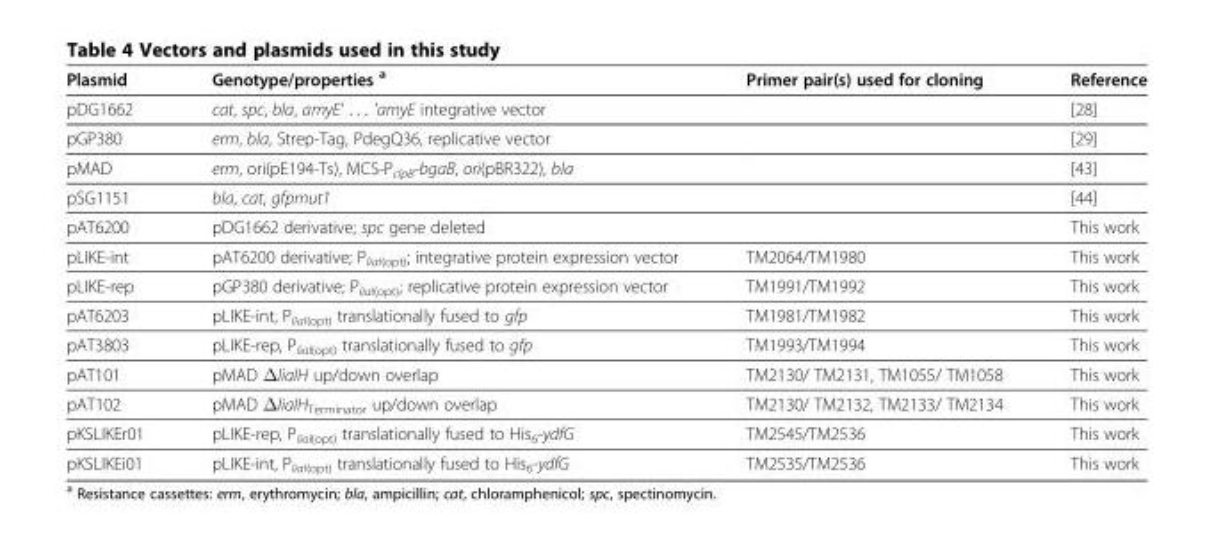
<table><thead><tr><td>Plasmid</td><td>Genotype/properties <sup>a</sup></td><td>Primer pair(s) used for cloning</td><td>Reference</td></tr></thead><tbody><tr><td>pDG1662</td><td>cat, spc, bla, amyE&#x27; . . . &#x27;amyE integrative vector</td><td></td><td>[28]</td></tr><tr><td>pGP380</td><td>erm, bla, Strep-Tag, PdegQ36, replicative vector</td><td></td><td>[29]</td></tr><tr><td>pMAD</td><td>erm, ori(pE194-Ts), MCS-P<sub>clpB</sub>-bgaB, ori(pBR322), bla</td><td></td><td>[43]</td></tr><tr><td>pSG1151</td><td>bla, cat, gfpmut1</td><td></td><td>[44]</td></tr><tr><td>pAT6200</td><td>pDG1662 derivative; spc gene deleted</td><td></td><td>This work</td></tr><tr><td>pLIKE-int</td><td>pAT6200 derivative; P<sub>liaI(opt)</sub>; integrative protein expression vector</td><td>TM2064/TM1980</td><td>This work</td></tr><tr><td>pLIKE-rep</td><td>pGP380 derivative; P<sub>liaI(opt)</sub>; replicative protein expression vector</td><td>TM1991/TM1992</td><td>This work</td></tr><tr><td>pAT6203</td><td>pLIKE-int, P<sub>liaI(opt)</sub> translationally fused to gfp</td><td>TM1981/TM1982</td><td>This work</td></tr><tr><td>pAT3803</td><td>pLIKE-rep, P<sub>liaI(opt)</sub> translationally fused to gfp</td><td>TM1993/TM1994</td><td>This work</td></tr><tr><td>pAT101</td><td>pMAD ΔliaIH up/down overlap</td><td>TM2130/ TM2131, TM1055/ TM1058</td><td>This work</td></tr><tr><td>pAT102</td><td>pMAD ΔliaIH<sub>Terminator</sub> up/down overlap</td><td>TM2130/ TM2132, TM2133/ TM2134</td><td>This work</td></tr><tr><td>pKSLIKEr01</td><td>pLIKE-rep, P<sub>liaI(opt)</sub> translationally fused to His<sub>6</sub>-ydfG</td><td>TM2545/TM2536</td><td>This work</td></tr><tr><td>pKSLIKEi01</td><td>pLIKE-int, P<sub>liaI(opt)</sub> translationally fused to His<sub>6</sub>-ydfG</td><td>TM2535/TM2536</td><td>This work</td></tr></tbody></table>